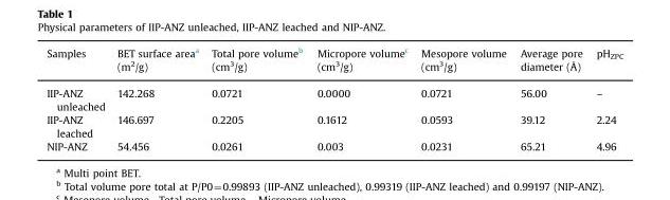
<table><thead><tr><td>Samples</td><td>BET surface area<sup>a</sup> (m<sup>2</sup>/g)</td><td>Total pore volume<sup>b</sup> (cm<sup>3</sup>/g)</td><td>Micropore volume<sup>c</sup> (cm<sup>3</sup>/g)</td><td>Mesopore volume (cm<sup>3</sup>/g)</td><td>Average pore diameter (Å)</td><td>pH<sub>ZPC</sub></td></tr></thead><tbody><tr><td>IIP-ANZ unleached</td><td>142.268</td><td>0.0721</td><td>0.0000</td><td>0.0721</td><td>56.00</td><td>–</td></tr><tr><td>IIP-ANZ leached</td><td>146.697</td><td>0.2205</td><td>0.1612</td><td>0.0593</td><td>39.12</td><td>2.24</td></tr><tr><td>NIP-ANZ</td><td>54.456</td><td>0.0261</td><td>0.003</td><td>0.0231</td><td>65.21</td><td>4.96</td></tr></tbody></table>